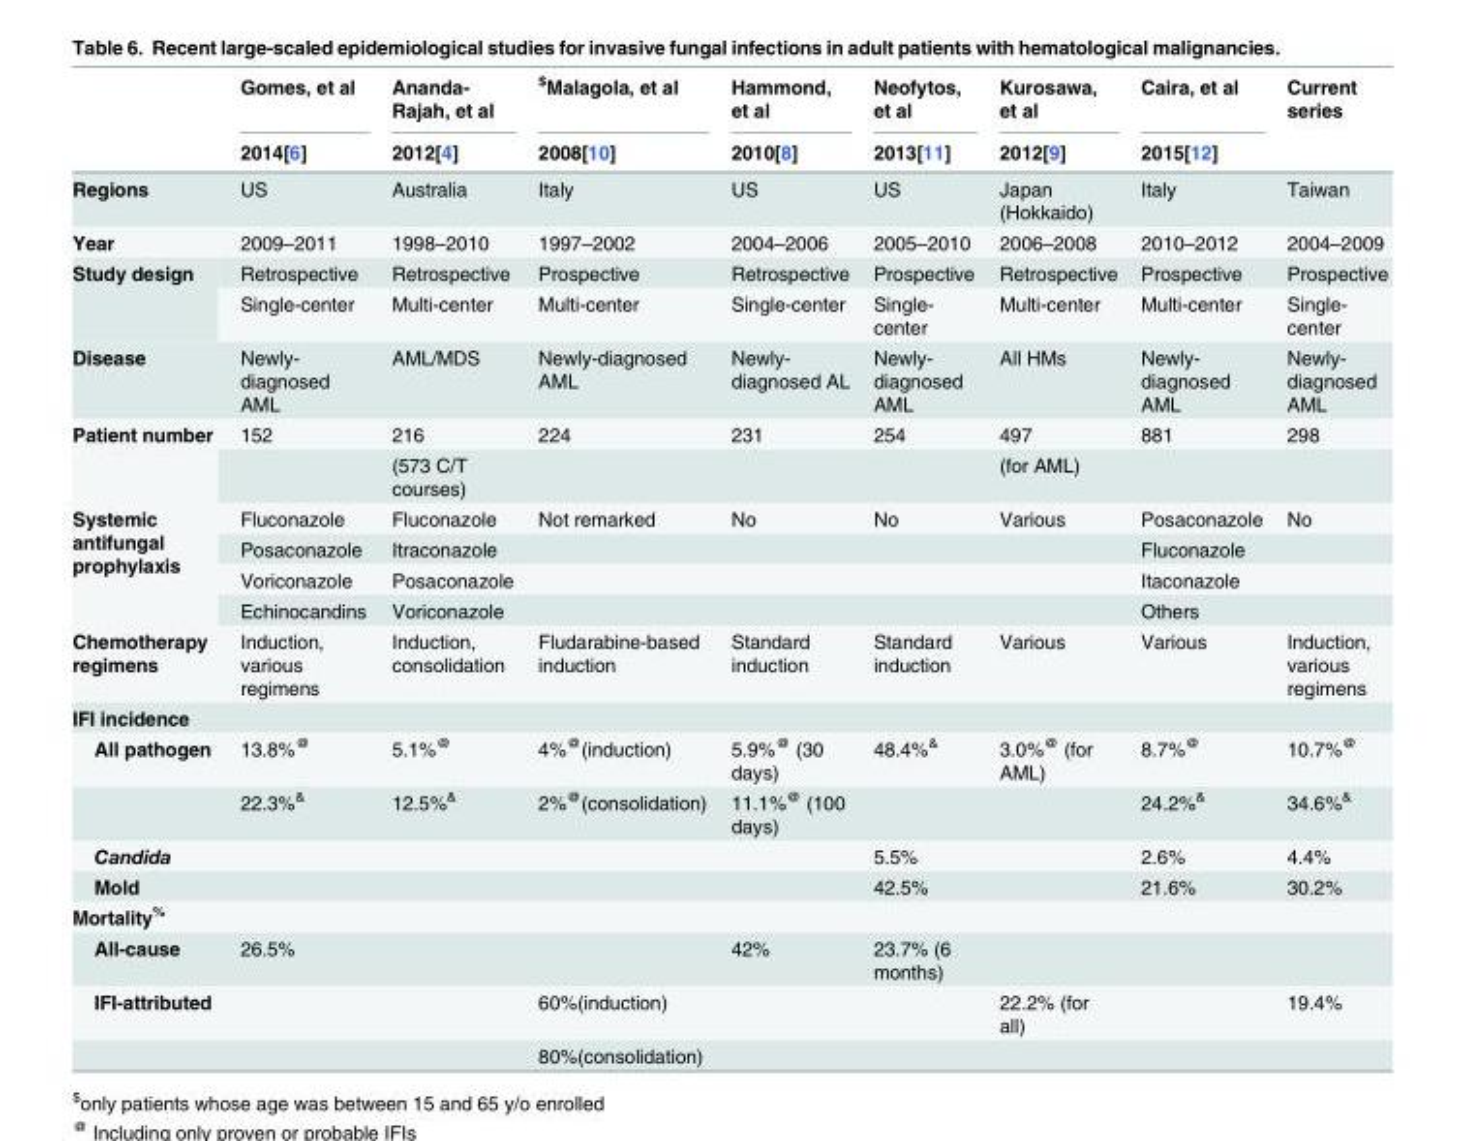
<table><thead><tr><td rowspan="2"></td><td rowspan="2">Gomes, et al 2014[6]</td><td rowspan="2">Ananda- Rajah, et al 2012[4]</td><td rowspan="2"><sup>$</sup>Malagola, et al 2008[10]</td><td rowspan="2">Hammond, et al 2010[8]</td><td rowspan="2">Neofytos, et al 2013[11]</td><td rowspan="2">Kurosawa, et al 2012[9]</td><td rowspan="2">Caira, et al 2015[12]</td><td rowspan="2">Current series</td></tr><tr></tr></thead><tbody><tr><td>Regions</td><td>US</td><td>Australia</td><td>Italy</td><td>US</td><td>US</td><td>Japan (Hokkaido)</td><td>Italy</td><td>Taiwan</td></tr><tr><td>Year</td><td>2009–2011</td><td>1998–2010</td><td>1997–2002</td><td>2004–2006</td><td>2005–2010</td><td>2006–2008</td><td>2010–2012</td><td>2004–2009</td></tr><tr><td rowspan="2">Study design</td><td>Retrospective</td><td>Retrospective</td><td>Prospective</td><td>Retrospective</td><td>Prospective</td><td>Retrospective</td><td>Prospective</td><td>Prospective</td></tr><tr><td>Single-center</td><td>Multi-center</td><td>Multi-center</td><td>Single-center</td><td>Single- center</td><td>Multi-center</td><td>Multi-center</td><td>Single- center</td></tr><tr><td>Disease</td><td>Newly- diagnosed AML</td><td>AML/MDS</td><td>Newly-diagnosed AML</td><td>Newly- diagnosed AL</td><td>Newly- diagnosed AML</td><td>All HMs</td><td>Newly- diagnosed AML</td><td>Newly- diagnosed AML</td></tr><tr><td rowspan="2">Patient number</td><td>152</td><td>216</td><td>224</td><td>231</td><td>254</td><td>497</td><td>881</td><td>298</td></tr><tr><td></td><td>(573 C/T courses)</td><td></td><td></td><td></td><td>(for AML)</td><td></td><td></td></tr><tr><td rowspan="4">Systemic antifungal prophylaxis</td><td>Fluconazole</td><td>Fluconazole</td><td>Not remarked</td><td>No</td><td>No</td><td>Various</td><td>Posaconazole</td><td>No</td></tr><tr><td>Posaconazole</td><td>Itraconazole</td><td></td><td></td><td></td><td></td><td>Fluconazole</td><td></td></tr><tr><td>Voriconazole</td><td>Posaconazole</td><td></td><td></td><td></td><td></td><td>Itaconazole</td><td></td></tr><tr><td>Echinocandins</td><td>Voriconazole</td><td></td><td></td><td></td><td></td><td>Others</td><td></td></tr><tr><td>Chemotherapy regimens</td><td>Induction, various regimens</td><td>Induction, consolidation</td><td>Fludarabine-based induction</td><td>Standard induction</td><td>Standard induction</td><td>Various</td><td>Various</td><td>Induction, various regimens</td></tr><tr><td colspan="9">IFI incidence</td></tr><tr><td rowspan="2">All pathogen</td><td>13.8%<sup>@</sup></td><td>5.1%<sup>@</sup></td><td>4%<sup>@</sup>(induction)</td><td>5.9%<sup>@</sup> (30 days)</td><td>48.4%<sup>&amp;</sup></td><td>3.0%<sup>@</sup> (for AML)</td><td>8.7%<sup>@</sup></td><td>10.7%<sup>@</sup></td></tr><tr><td>22.3%<sup>&amp;</sup></td><td>12.5%<sup>&amp;</sup></td><td>2%<sup>@</sup>(consolidation)</td><td>11.1%<sup>@</sup> (100 days)</td><td></td><td></td><td>24.2%<sup>&amp;</sup></td><td>34.6%<sup>&amp;</sup></td></tr><tr><td>Candida</td><td></td><td></td><td></td><td></td><td>5.5%</td><td></td><td>2.6%</td><td>4.4%</td></tr><tr><td>Mold</td><td></td><td></td><td></td><td></td><td>42.5%</td><td></td><td>21.6%</td><td>30.2%</td></tr><tr><td colspan="9">Mortality<sup>%</sup></td></tr><tr><td>All-cause</td><td>26.5%</td><td></td><td></td><td>42%</td><td>23.7% (6 months)</td><td></td><td></td><td></td></tr><tr><td rowspan="2">IFI-attributed</td><td></td><td></td><td>60%(induction)</td><td></td><td></td><td>22.2% (for all)</td><td></td><td>19.4%</td></tr><tr><td></td><td></td><td>80%(consolidation)</td><td></td><td></td><td></td><td></td><td></td></tr></tbody></table>